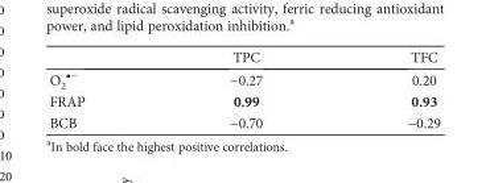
<table><thead><tr><td></td><td>TPC</td><td>TFC</td></tr></thead><tbody><tr><td>O<sub>2</sub> <sup>•−</sup></td><td>−0.27</td><td>0.20</td></tr><tr><td>FRAP</td><td>0.99</td><td>0.93</td></tr><tr><td>BCB</td><td>−0.70</td><td>−0.29</td></tr></tbody></table>